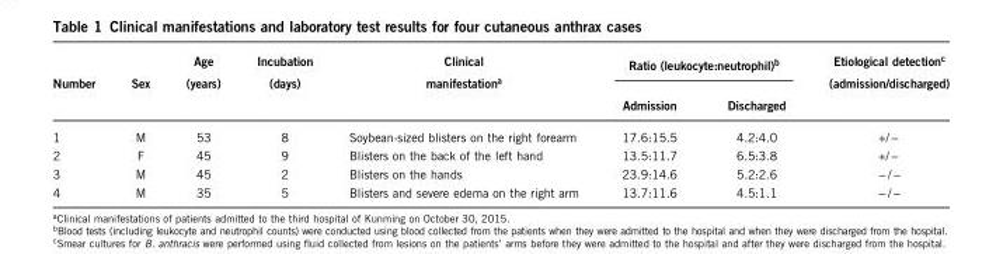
<table><thead><tr><td rowspan="2">Number</td><td rowspan="2">Sex</td><td rowspan="2">Age (years)</td><td rowspan="2">Incubation (days)</td><td rowspan="2">Clinical manifestation<sup>a</sup></td><td colspan="2">Ratio (leukocyte:neutrophil)<sup>b</sup></td><td rowspan="2">Etiological detection<sup>c</sup> (admission/discharged)</td></tr><tr><td>Admission</td><td>Discharged</td></tr></thead><tbody><tr><td>1</td><td>M</td><td>53</td><td>8</td><td>Soybean-sized blisters on the right forearm</td><td>17.6:15.5</td><td>4.2:4.0</td><td>+/ −</td></tr><tr><td>2</td><td>F</td><td>45</td><td>9</td><td>Blisters on the back of the left hand</td><td>13.5:11.7</td><td>6.5:3.8</td><td>+/ −</td></tr><tr><td>3</td><td>M</td><td>45</td><td>2</td><td>Blisters on the hands</td><td>23.9:14.6</td><td>5.2:2.6</td><td>− / −</td></tr><tr><td>4</td><td>M</td><td>35</td><td>5</td><td>Blisters and severe edema on the right arm</td><td>13.7:11.6</td><td>4.5:1.1</td><td>− / −</td></tr></tbody></table>